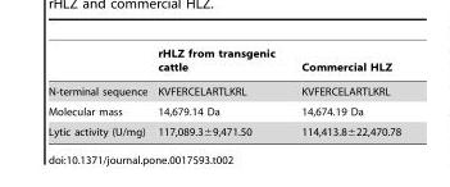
<table><thead><tr><td></td><td>rHLZ from transgenic cattle</td><td>Commercial HLZ</td></tr></thead><tbody><tr><td>N-terminal sequence</td><td>KVFERCELARTLKRL</td><td>KVFERCELARTLKRL</td></tr><tr><td>Molecular mass</td><td>14,679.14 Da</td><td>14,674.19 Da</td></tr><tr><td>Lytic activity (U/mg)</td><td>117,089.3±9,471.50</td><td>114,413.8±22,470.78</td></tr></tbody></table>